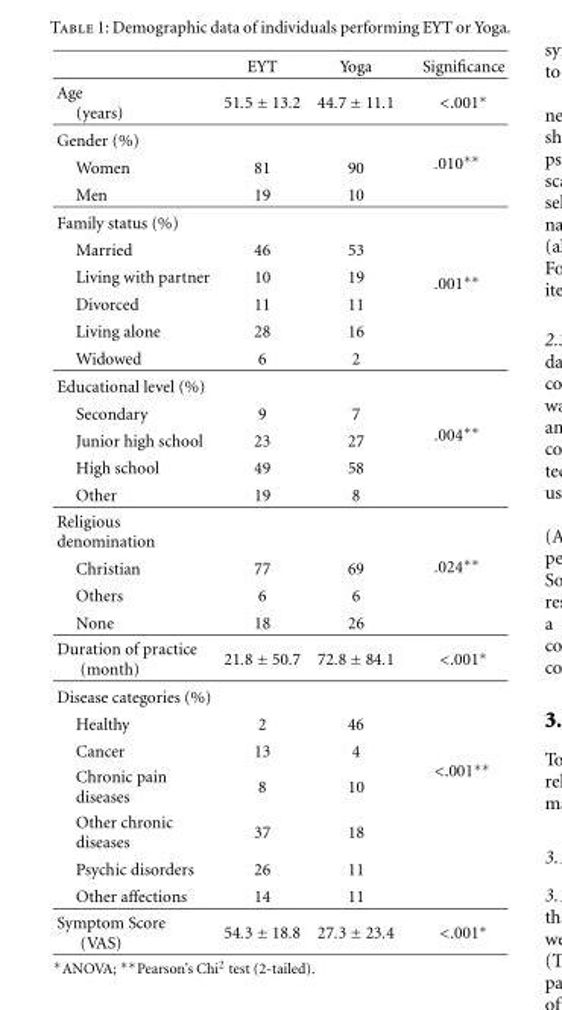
<table><thead><tr><td></td><td>EYT</td><td>Yoga</td><td>Significance</td></tr></thead><tbody><tr><td>Age (years)</td><td>51.5 ± 13.2</td><td>44.7 ± 11.1</td><td>&lt;.001∗</td></tr><tr><td colspan="3">Gender (%)</td><td rowspan="3">.010∗∗</td></tr><tr><td>Women</td><td>81</td><td>90</td></tr><tr><td>Men</td><td>19</td><td>10</td></tr><tr><td colspan="3">Family status (%)</td><td rowspan="6">.001∗∗</td></tr><tr><td>Married</td><td>46</td><td>53</td></tr><tr><td>Living with partner</td><td>10</td><td>19</td></tr><tr><td>Divorced</td><td>11</td><td>11</td></tr><tr><td>Living alone</td><td>28</td><td>16</td></tr><tr><td>Widowed</td><td>6</td><td>2</td></tr><tr><td colspan="3">Educational level (%)</td><td rowspan="5">.004∗∗</td></tr><tr><td>Secondary</td><td>9</td><td>7</td></tr><tr><td>Junior high school</td><td>23</td><td>27</td></tr><tr><td>High school</td><td>49</td><td>58</td></tr><tr><td>Other</td><td>19</td><td>8</td></tr><tr><td colspan="3">Religious denomination</td><td rowspan="4">.024∗∗</td></tr><tr><td>Christian</td><td>77</td><td>69</td></tr><tr><td>Others</td><td>6</td><td>6</td></tr><tr><td>None</td><td>18</td><td>26</td></tr><tr><td>Duration of practice (month)</td><td>21.8 ± 50.7</td><td>72.8 ± 84.1</td><td>&lt;.001∗</td></tr><tr><td colspan="3">Disease categories (%)</td><td rowspan="7">&lt;.001∗∗</td></tr><tr><td>Healthy</td><td>2</td><td>46</td></tr><tr><td>Cancer</td><td>13</td><td>4</td></tr><tr><td>Chronic pain diseases</td><td>8</td><td>10</td></tr><tr><td>Other chronic diseases</td><td>37</td><td>18</td></tr><tr><td>Psychic disorders</td><td>26</td><td>11</td></tr><tr><td>Other affections</td><td>14</td><td>11</td></tr><tr><td>Symptom Score (VAS)</td><td>54.3 ± 18.8</td><td>27.3 ± 23.4</td><td>&lt;.001∗</td></tr></tbody></table>